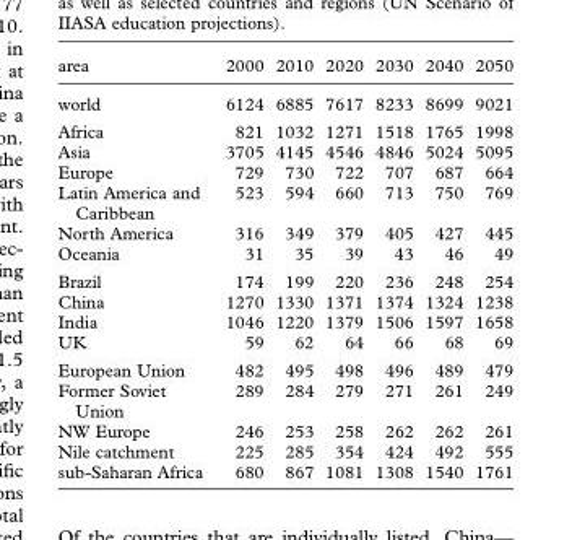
<table><thead><tr><td>area</td><td>2000</td><td>2010</td><td>2020</td><td>2030</td><td>2040</td><td>2050</td></tr></thead><tbody><tr><td>world</td><td>6124</td><td>6885</td><td>7617</td><td>8233</td><td>8699</td><td>9021</td></tr><tr><td>Africa</td><td>821</td><td>1032</td><td>1271</td><td>1518</td><td>1765</td><td>1998</td></tr><tr><td>Asia</td><td>3705</td><td>4145</td><td>4546</td><td>4846</td><td>5024</td><td>5095</td></tr><tr><td>Europe</td><td>729</td><td>730</td><td>722</td><td>707</td><td>687</td><td>664</td></tr><tr><td>Latin America and Caribbean</td><td>523</td><td>594</td><td>660</td><td>713</td><td>750</td><td>769</td></tr><tr><td>North America</td><td>316</td><td>349</td><td>379</td><td>405</td><td>427</td><td>445</td></tr><tr><td>Oceania</td><td>31</td><td>35</td><td>39</td><td>43</td><td>46</td><td>49</td></tr><tr><td>Brazil</td><td>174</td><td>199</td><td>220</td><td>236</td><td>248</td><td>254</td></tr><tr><td>China</td><td>1270</td><td>1330</td><td>1371</td><td>1374</td><td>1324</td><td>1238</td></tr><tr><td>India</td><td>1046</td><td>1220</td><td>1379</td><td>1506</td><td>1597</td><td>1658</td></tr><tr><td>UK</td><td>59</td><td>62</td><td>64</td><td>66</td><td>68</td><td>69</td></tr><tr><td>European Union</td><td>482</td><td>495</td><td>498</td><td>496</td><td>489</td><td>479</td></tr><tr><td>Former Soviet Union</td><td>289</td><td>284</td><td>279</td><td>271</td><td>261</td><td>249</td></tr><tr><td>NW Europe</td><td>246</td><td>253</td><td>258</td><td>262</td><td>262</td><td>261</td></tr><tr><td>Nile catchment</td><td>225</td><td>285</td><td>354</td><td>424</td><td>492</td><td>555</td></tr><tr><td>sub-Saharan Africa</td><td>680</td><td>867</td><td>1081</td><td>1308</td><td>1540</td><td>1761</td></tr></tbody></table>